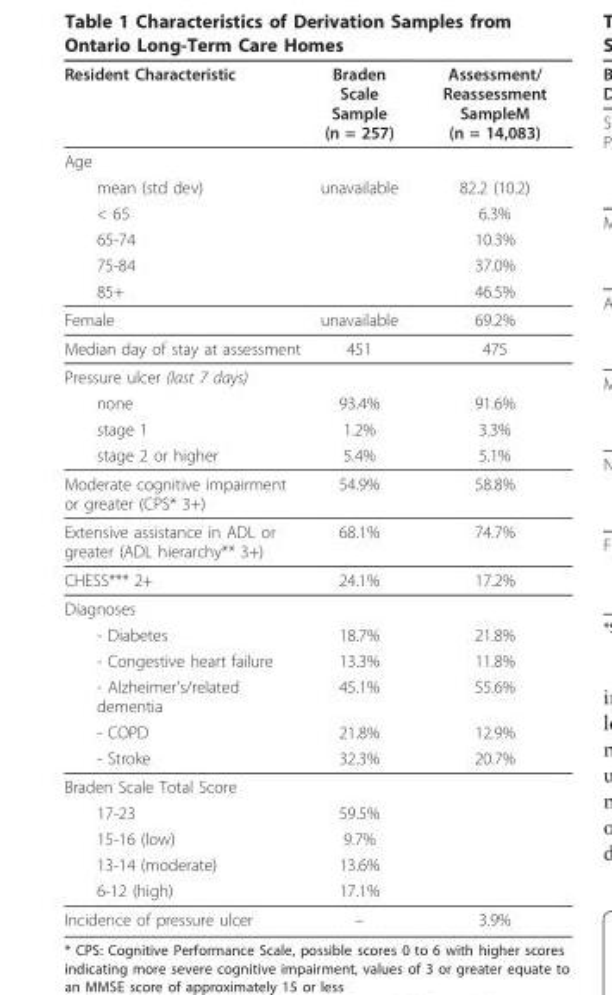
<table><thead><tr><td>Resident Characteristic</td><td>Braden Scale Sample (n = 257)</td><td>Assessment/ Reassessment SampleM (n = 14,083)</td></tr></thead><tbody><tr><td colspan="3">Age</td></tr><tr><td>mean (std dev)</td><td>unavailable</td><td>82.2 (10.2)</td></tr><tr><td>&lt; 65</td><td></td><td>6.3%</td></tr><tr><td>65-74</td><td></td><td>10.3%</td></tr><tr><td>75-84</td><td></td><td>37.0%</td></tr><tr><td>85+</td><td></td><td>46.5%</td></tr><tr><td>Female</td><td>unavailable</td><td>69.2%</td></tr><tr><td>Median day of stay at assessment</td><td>451</td><td>475</td></tr><tr><td colspan="3">Pressure ulcer (last 7 days)</td></tr><tr><td>none</td><td>93.4%</td><td>91.6%</td></tr><tr><td>stage 1</td><td>1.2%</td><td>3.3%</td></tr><tr><td>stage 2 or higher</td><td>5.4%</td><td>5.1%</td></tr><tr><td>Moderate cognitive impairment or greater (CPS* 3+)</td><td>54.9%</td><td>58.8%</td></tr><tr><td>Extensive assistance in ADL or greater (ADL hierarchy** 3+)</td><td>68.1%</td><td>74.7%</td></tr><tr><td>CHESS*** 2+</td><td>24.1%</td><td>17.2%</td></tr><tr><td colspan="3">Diagnoses</td></tr><tr><td>- Diabetes</td><td>18.7%</td><td>21.8%</td></tr><tr><td>- Congestive heart failure</td><td>13.3%</td><td>11.8%</td></tr><tr><td>- Alzheimer’s/related dementia</td><td>45.1%</td><td>55.6%</td></tr><tr><td>- COPD</td><td>21.8%</td><td>12.9%</td></tr><tr><td>- Stroke</td><td>32.3%</td><td>20.7%</td></tr><tr><td colspan="3">Braden Scale Total Score</td></tr><tr><td>17-23</td><td>59.5%</td><td></td></tr><tr><td>15-16 (low)</td><td>9.7%</td><td></td></tr><tr><td>13-14 (moderate)</td><td>13.6%</td><td></td></tr><tr><td>6-12 (high)</td><td>17.1%</td><td></td></tr><tr><td>Incidence of pressure ulcer</td><td>–</td><td>3.9%</td></tr></tbody></table>